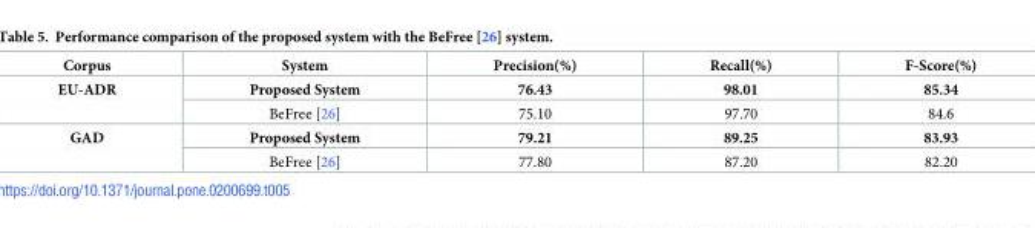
<table><thead><tr><td>Corpus</td><td>System</td><td>Precision(%)</td><td>Recall(%)</td><td>F-Score(%)</td></tr></thead><tbody><tr><td rowspan="2">EU-ADR</td><td>Proposed System</td><td>76.43</td><td>98.01</td><td>85.34</td></tr><tr><td>BeFree [26]</td><td>75.10</td><td>97.70</td><td>84.6</td></tr><tr><td rowspan="2">GAD</td><td>Proposed System</td><td>79.21</td><td>89.25</td><td>83.93</td></tr><tr><td>BeFree [26]</td><td>77.80</td><td>87.20</td><td>82.20</td></tr></tbody></table>